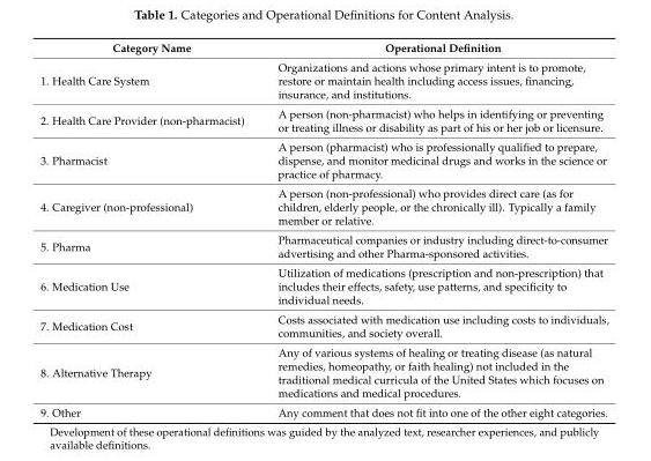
<table><thead><tr><td>Category Name</td><td>Operational Definition</td></tr></thead><tbody><tr><td>1. Health Care System</td><td>Organizations and actions whose primary intent is to promote, restore or maintain health including access issues, financing, insurance, and institutions.</td></tr><tr><td>2. Health Care Provider (non-pharmacist)</td><td>A person (non-pharmacist) who helps in identifying or preventing or treating illness or disability as part of his or her job or licensure.</td></tr><tr><td>3. Pharmacist</td><td>A person (pharmacist) who is professionally qualified to prepare, dispense, and monitor medicinal drugs and works in the science or practice of pharmacy.</td></tr><tr><td>4. Caregiver (non-professional)</td><td>A person (non-professional) who provides direct care (as for children, elderly people, or the chronically ill). Typically a family member or relative.</td></tr><tr><td>5. Pharma</td><td>Pharmaceutical companies or industry including direct-to-consumer advertising and other Pharma-sponsored activities.</td></tr><tr><td>6. Medication Use</td><td>Utilization of medications (prescription and non-prescription) that includes their effects, safety, use patterns, and specificity to individual needs.</td></tr><tr><td>7. Medication Cost</td><td>Costs associated with medication use including costs to individuals, communities, and society overall.</td></tr><tr><td>8. Alternative Therapy</td><td>Any of various systems of healing or treating disease (as natural remedies, homeopathy, or faith healing) not included in the traditional medical curricula of the United States which focuses on medications and medical procedures.</td></tr><tr><td>9. Other</td><td>Any comment that does not fit into one of the other eight categories.</td></tr></tbody></table>